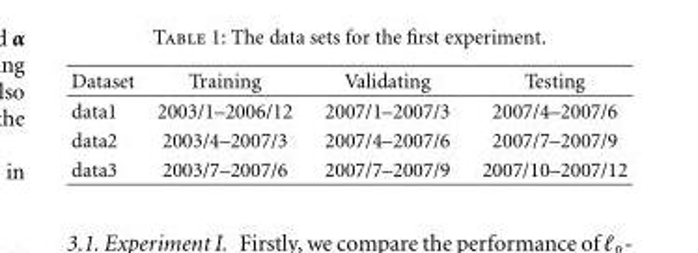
<table><thead><tr><td>Dataset</td><td>Training</td><td>Validating</td><td>Testing</td></tr></thead><tbody><tr><td>data1</td><td>2003/1–2006/12</td><td>2007/1–2007/3</td><td>2007/4–2007/6</td></tr><tr><td>data2</td><td>2003/4–2007/3</td><td>2007/4–2007/6</td><td>2007/7–2007/9</td></tr><tr><td>data3</td><td>2003/7–2007/6</td><td>2007/7–2007/9</td><td>2007/10–2007/12</td></tr></tbody></table>